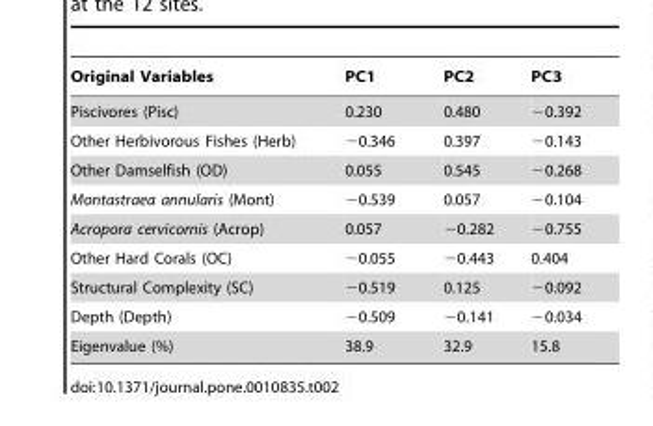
<table><thead><tr><td>Original Variables</td><td>PC1</td><td>PC2</td><td>PC3</td></tr></thead><tbody><tr><td>Piscivores (Pisc)</td><td>0.230</td><td>0.480</td><td>−0.392</td></tr><tr><td>Other Herbivorous Fishes (Herb)</td><td>−0.346</td><td>0.397</td><td>−0.143</td></tr><tr><td>Other Damselfish (OD)</td><td>0.055</td><td>0.545</td><td>−0.268</td></tr><tr><td>Montastraea annularis (Mont)</td><td>−0.539</td><td>0.057</td><td>−0.104</td></tr><tr><td>Acropora cervicornis (Acrop)</td><td>0.057</td><td>−0.282</td><td>−0.755</td></tr><tr><td>Other Hard Corals (OC)</td><td>−0.055</td><td>−0.443</td><td>0.404</td></tr><tr><td>Structural Complexity (SC)</td><td>−0.519</td><td>0.125</td><td>−0.092</td></tr><tr><td>Depth (Depth)</td><td>−0.509</td><td>−0.141</td><td>−0.034</td></tr><tr><td>Eigenvalue (%)</td><td>38.9</td><td>32.9</td><td>15.8</td></tr></tbody></table>